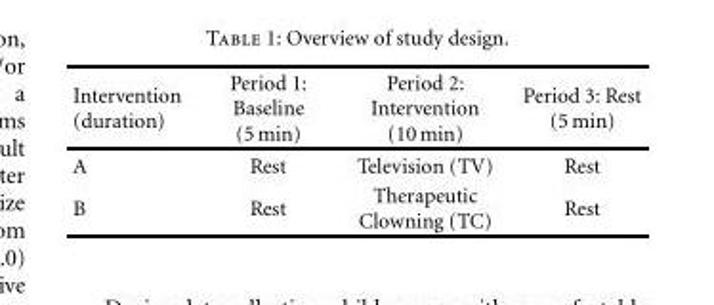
<table><thead><tr><td>Intervention (duration)</td><td>Period 1: Baseline (5 min)</td><td>Period 2: Intervention (10 min)</td><td>Period 3: Rest (5 min)</td></tr></thead><tbody><tr><td>A</td><td>Rest</td><td>Television (TV)</td><td>Rest</td></tr><tr><td>B</td><td>Rest</td><td>Therapeutic Clowning (TC)</td><td>Rest</td></tr></tbody></table>